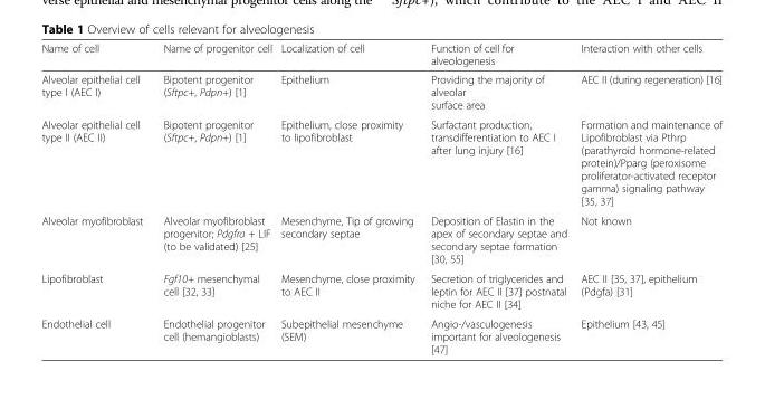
<table><thead><tr><td>Name of cell</td><td>Name of progenitor cell</td><td>Localization of cell</td><td>Function of cell for alveologenesis</td><td>Interaction with other cells</td></tr></thead><tbody><tr><td>Alveolar epithelial cell type I (AEC I)</td><td>Bipotent progenitor (Sftpc+, Pdpn+) [1]</td><td>Epithelium</td><td>Providing the majority of alveolar surface area</td><td>AEC II (during regeneration) [16]</td></tr><tr><td>Alveolar epithelial cell type II (AEC II)</td><td>Bipotent progenitor (Sftpc+, Pdpn+) [1]</td><td>Epithelium, close proximity to lipofibroblast</td><td>Surfactant production, transdifferentiation to AEC I after lung injury [16]</td><td>Formation and maintenance of Lipofibroblast via Pthrp (parathyroid hormone-related protein)/Pparg (peroxisome proliferator-activated receptor gamma) signaling pathway [35, 37]</td></tr><tr><td>Alveolar myofibroblast</td><td>Alveolar myofibroblast progenitor; Pdgfra + LIF (to be validated) [25]</td><td>Mesenchyme, Tip of growing secondary septae</td><td>Deposition of Elastin in the apex of secondary septae and secondary septae formation [30, 55]</td><td>Not known</td></tr><tr><td>Lipofibroblast</td><td>Fgf10+ mesenchymal cell [32, 33]</td><td>Mesenchyme, close proximity to AEC II</td><td>Secretion of triglycerides and leptin for AEC II [37] postnatal niche for AEC II [34]</td><td>AEC II [35, 37], epithelium (Pdgfa) [31]</td></tr><tr><td>Endothelial cell</td><td>Endothelial progenitor cell (hemangioblasts)</td><td>Subepithelial mesenchyme (SEM)</td><td>Angio-/vasculogenesis important for alveologenesis [47]</td><td>Epithelium [43, 45]</td></tr></tbody></table>